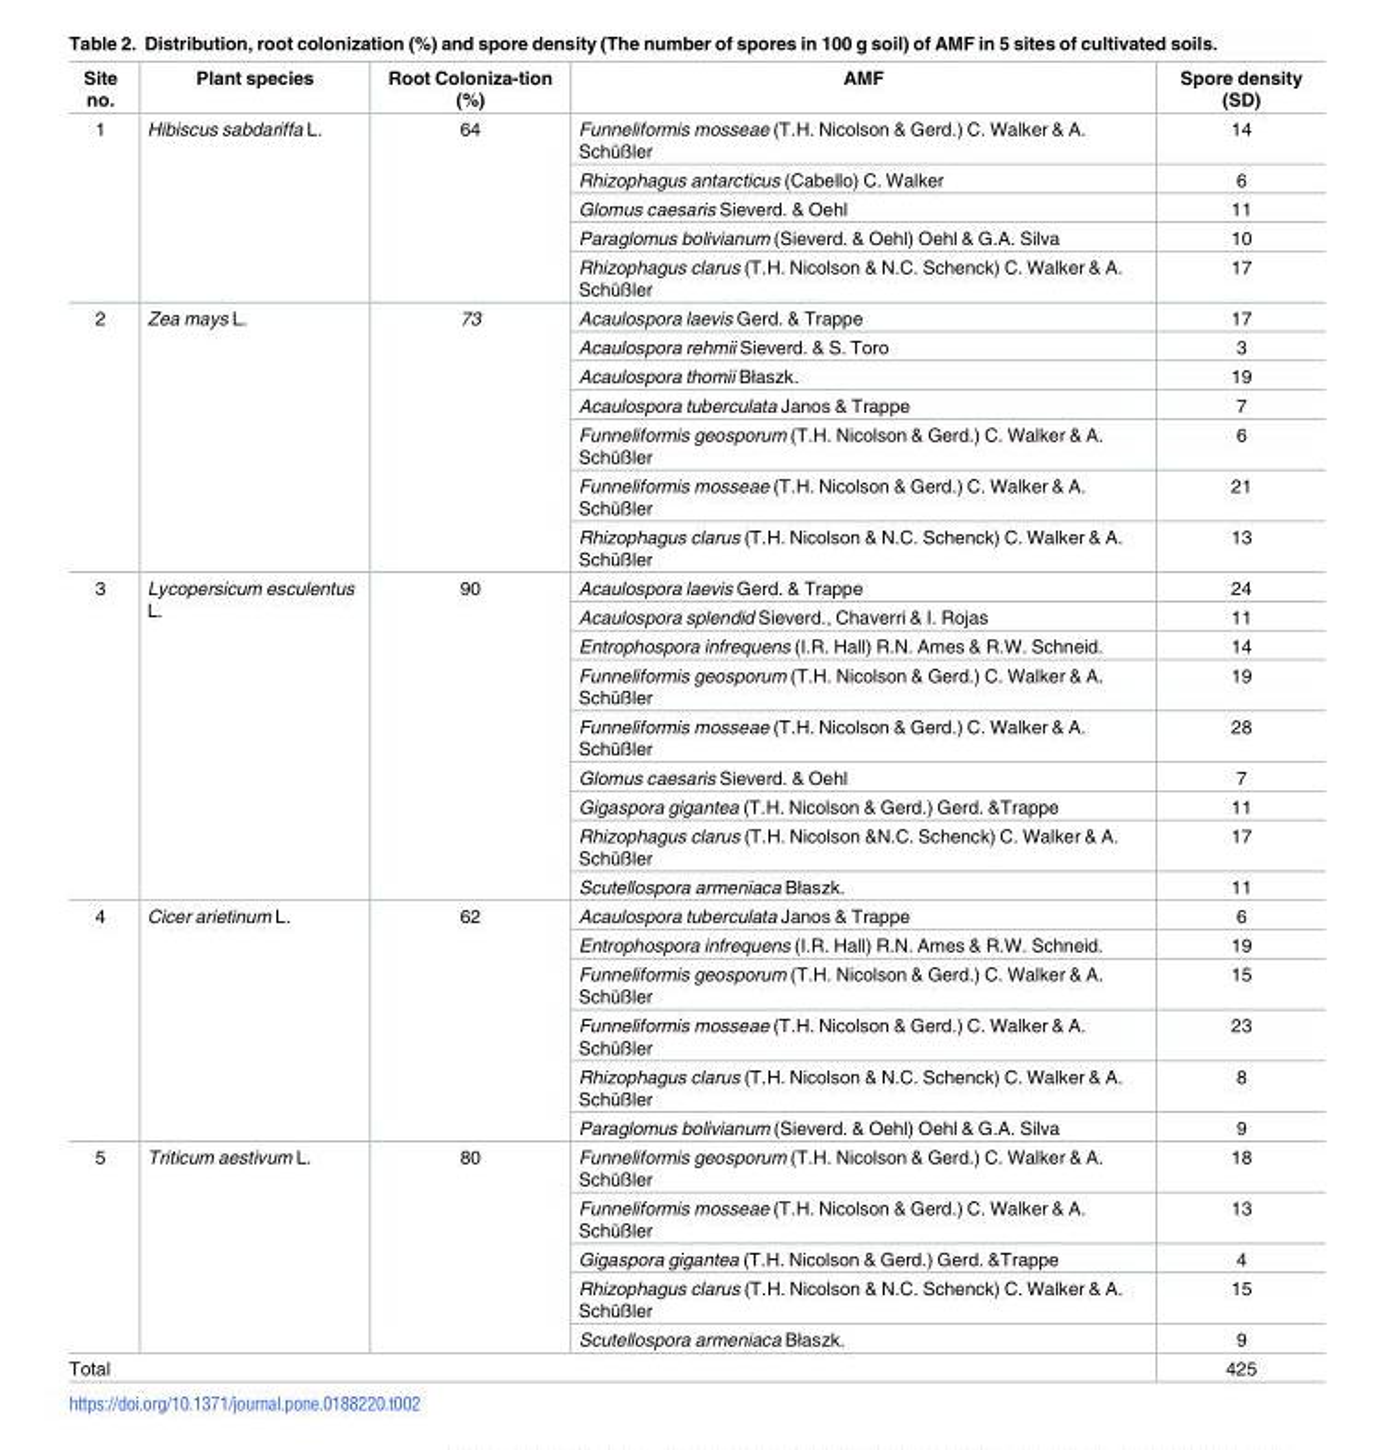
<table><thead><tr><td>Site no.</td><td>Plant species</td><td>Root Coloniza-tion (%)</td><td>AMF</td><td>Spore density (SD)</td></tr></thead><tbody><tr><td rowspan="5">1</td><td rowspan="5">Hibiscus sabdariffa L.</td><td rowspan="5">64</td><td>Funneliformis mosseae (T.H. Nicolson &amp; Gerd.) C. Walker &amp; A. Schu¨ßler</td><td>14</td></tr><tr><td>Rhizophagus antarcticus (Cabello) C. Walker</td><td>6</td></tr><tr><td>Glomus caesaris Sieverd. &amp; Oehl</td><td>11</td></tr><tr><td>Paraglomus bolivianum (Sieverd. &amp; Oehl) Oehl &amp; G.A. Silva</td><td>10</td></tr><tr><td>Rhizophagus clarus (T.H. Nicolson &amp; N.C. Schenck) C. Walker &amp; A. Schu¨ßler</td><td>17</td></tr><tr><td rowspan="7">2</td><td rowspan="7">Zea mays L.</td><td rowspan="7">73</td><td>Acaulospora laevis Gerd. &amp; Trappe</td><td>17</td></tr><tr><td>Acaulospora rehmii Sieverd. &amp; S. Toro</td><td>3</td></tr><tr><td>Acaulospora thomii Błaszk.</td><td>19</td></tr><tr><td>Acaulospora tuberculata Janos &amp; Trappe</td><td>7</td></tr><tr><td>Funneliformis geosporum (T.H. Nicolson &amp; Gerd.) C. Walker &amp; A. Schu¨ßler</td><td>6</td></tr><tr><td>Funneliformis mosseae (T.H. Nicolson &amp; Gerd.) C. Walker &amp; A. Schu¨ßler</td><td>21</td></tr><tr><td>Rhizophagus clarus (T.H. Nicolson &amp; N.C. Schenck) C. Walker &amp; A. Schu¨ßler</td><td>13</td></tr><tr><td rowspan="9">3</td><td rowspan="9">Lycopersicum esculentus L.</td><td rowspan="9">90</td><td>Acaulospora laevis Gerd. &amp; Trappe</td><td>24</td></tr><tr><td>Acaulospora splendid Sieverd., Chaverri &amp; I. Rojas</td><td>11</td></tr><tr><td>Entrophospora infrequens (I.R. Hall) R.N. Ames &amp; R.W. Schneid.</td><td>14</td></tr><tr><td>Funneliformis geosporum (T.H. Nicolson &amp; Gerd.) C. Walker &amp; A. Schu¨ßler</td><td>19</td></tr><tr><td>Funneliformis mosseae (T.H. Nicolson &amp; Gerd.) C. Walker &amp; A. Schu¨ßler</td><td>28</td></tr><tr><td>Glomus caesaris Sieverd. &amp; Oehl</td><td>7</td></tr><tr><td>Gigaspora gigantea (T.H. Nicolson &amp; Gerd.) Gerd. &amp;Trappe</td><td>11</td></tr><tr><td>Rhizophagus clarus (T.H. Nicolson &amp;N.C. Schenck) C. Walker &amp; A. Schu¨ßler</td><td>17</td></tr><tr><td>Scutellospora armeniaca Błaszk.</td><td>11</td></tr><tr><td rowspan="6">4</td><td rowspan="6">Cicer arietinum L.</td><td rowspan="6">62</td><td>Acaulospora tuberculata Janos &amp; Trappe</td><td>6</td></tr><tr><td>Entrophospora infrequens (I.R. Hall) R.N. Ames &amp; R.W. Schneid.</td><td>19</td></tr><tr><td>Funneliformis geosporum (T.H. Nicolson &amp; Gerd.) C. Walker &amp; A. Schu¨ßler</td><td>15</td></tr><tr><td>Funneliformis mosseae (T.H. Nicolson &amp; Gerd.) C. Walker &amp; A. Schu¨ßler</td><td>23</td></tr><tr><td>Rhizophagus clarus (T.H. Nicolson &amp; N.C. Schenck) C. Walker &amp; A. Schu¨ßler</td><td>8</td></tr><tr><td>Paraglomus bolivianum (Sieverd. &amp; Oehl) Oehl &amp; G.A. Silva</td><td>9</td></tr><tr><td rowspan="5">5</td><td rowspan="5">Triticum aestivum L.</td><td rowspan="5">80</td><td>Funneliformis geosporum (T.H. Nicolson &amp; Gerd.) C. Walker &amp; A. Schu¨ßler</td><td>18</td></tr><tr><td>Funneliformis mosseae (T.H. Nicolson &amp; Gerd.) C. Walker &amp; A. Schu¨ßler</td><td>13</td></tr><tr><td>Gigaspora gigantea (T.H. Nicolson &amp; Gerd.) Gerd. &amp;Trappe</td><td>4</td></tr><tr><td>Rhizophagus clarus (T.H. Nicolson &amp; N.C. Schenck) C. Walker &amp; A. Schu¨ßler</td><td>15</td></tr><tr><td>Scutellospora armeniaca Błaszk.</td><td>9</td></tr><tr><td colspan="4">Total</td><td>425</td></tr></tbody></table>